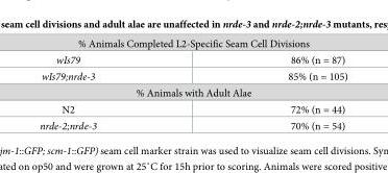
<table><tbody><tr><td colspan="2">% Animals Completed L2-Specific Seam Cell Divisions</td></tr><tr><td>wIs79</td><td>86% (n = 87)</td></tr><tr><td>wIs79;nrde-3</td><td>85% (n = 105)</td></tr><tr><td colspan="2">% Animals with Adult Alae</td></tr><tr><td>N2</td><td>72% (n = 44)</td></tr><tr><td>nrde-2;nrde-3</td><td>70% (n = 54)</td></tr></tbody></table>